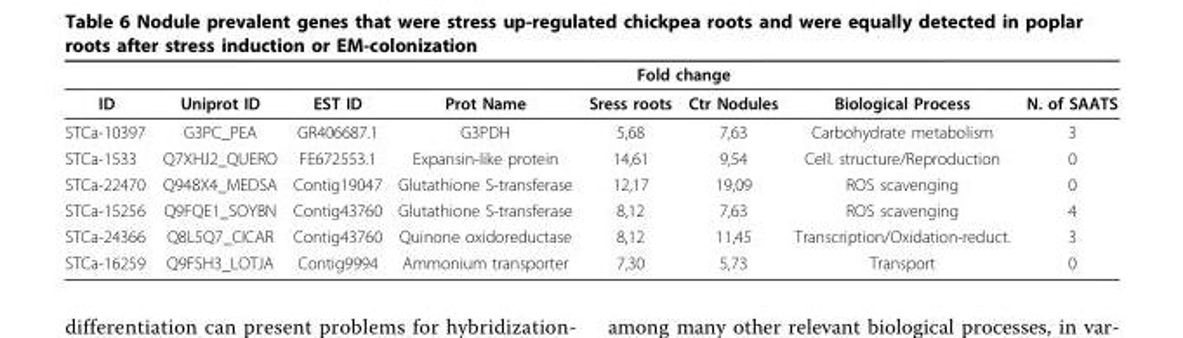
<table><thead><tr><td rowspan="2">ID</td><td rowspan="2">Uniprot ID</td><td rowspan="2">EST ID</td><td rowspan="2">Prot Name</td><td colspan="2">Fold change</td><td rowspan="2">Biological Process</td><td rowspan="2">N. of SAATS</td></tr><tr><td>Sress roots</td><td>Ctr Nodules</td></tr></thead><tbody><tr><td>STCa-10397</td><td>G3PC_PEA</td><td>GR406687.1</td><td>G3PDH</td><td>5,68</td><td>7,63</td><td>Carbohydrate metabolism</td><td>3</td></tr><tr><td>STCa-1533</td><td>Q7XHJ2_QUERO</td><td>FE672553.1</td><td>Expansin-like protein</td><td>14,61</td><td>9,54</td><td>Cell. structure/Reproduction</td><td>0</td></tr><tr><td>STCa-22470</td><td>Q948X4_MEDSA</td><td>Contig19047</td><td>Glutathione S-transferase</td><td>12,17</td><td>19,09</td><td>ROS scavenging</td><td>0</td></tr><tr><td>STCa-15256</td><td>Q9FQE1_SOYBN</td><td>Contig43760</td><td>Glutathione S-transferase</td><td>8,12</td><td>7,63</td><td>ROS scavenging</td><td>4</td></tr><tr><td>STCa-24366</td><td>Q8L5Q7_CICAR</td><td>Contig43760</td><td>Quinone oxidoreductase</td><td>8,12</td><td>11,45</td><td>Transcription/Oxidation-reduct.</td><td>3</td></tr><tr><td>STCa-16259</td><td>Q9FSH3_LOTJA</td><td>Contig9994</td><td>Ammonium transporter</td><td>7,30</td><td>5,73</td><td>Transport</td><td>0</td></tr></tbody></table>